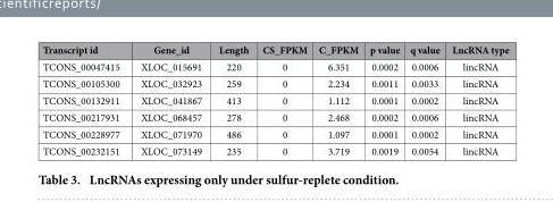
<table><thead><tr><td>Transcript id</td><td>Gene_id</td><td>Length</td><td>CS_FPKM</td><td>C_FPKM</td><td>p value</td><td>q value</td><td>LncRNA type</td></tr></thead><tbody><tr><td>TCONS_00047415</td><td>XLOC_015691</td><td>220</td><td>0</td><td>6.351</td><td>0.0002</td><td>0.0006</td><td>lincRNA</td></tr><tr><td>TCONS_00105300</td><td>XLOC_032923</td><td>259</td><td>0</td><td>2.234</td><td>0.0011</td><td>0.0033</td><td>lincRNA</td></tr><tr><td>TCONS_00132911</td><td>XLOC_041867</td><td>413</td><td>0</td><td>1.112</td><td>0.0001</td><td>0.0002</td><td>lincRNA</td></tr><tr><td>TCONS_00217931</td><td>XLOC_068457</td><td>278</td><td>0</td><td>2.468</td><td>0.0002</td><td>0.0006</td><td>lincRNA</td></tr><tr><td>TCONS_00228977</td><td>XLOC_071970</td><td>486</td><td>0</td><td>1.097</td><td>0.0001</td><td>0.0002</td><td>lincRNA</td></tr><tr><td>TCONS_00232151</td><td>XLOC_073149</td><td>235</td><td>0</td><td>3.719</td><td>0.0019</td><td>0.0054</td><td>lincRNA</td></tr></tbody></table>